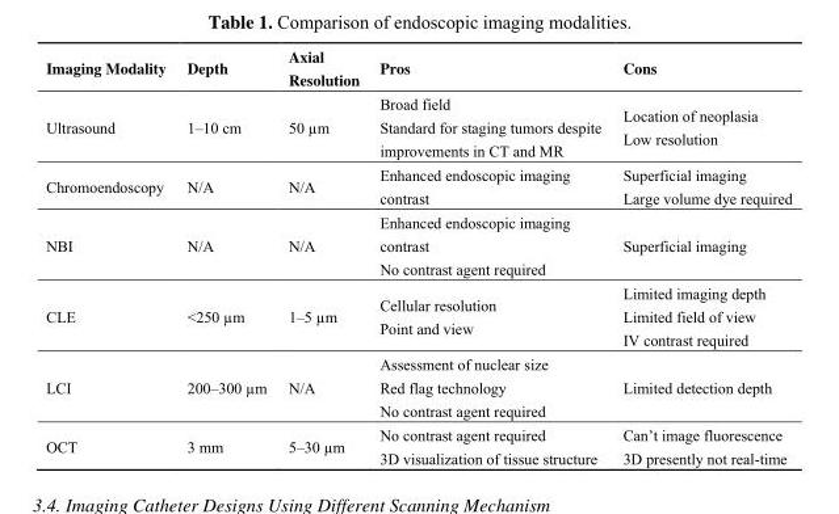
<table><thead><tr><td>Imaging Modality</td><td>Depth</td><td>Axial Resolution</td><td>Pros</td><td>Cons</td></tr></thead><tbody><tr><td>Ultrasound</td><td>1–10 cm</td><td>50 µm</td><td>Broad field Standard for staging tumors despite improvements in CT and MR</td><td>Location of neoplasia Low resolution</td></tr><tr><td>Chromoendoscopy</td><td>N/A</td><td>N/A</td><td>Enhanced endoscopic imaging contrast</td><td>Superficial imaging Large volume dye required</td></tr><tr><td>NBI</td><td>N/A</td><td>N/A</td><td>Enhanced endoscopic imaging contrast No contrast agent required</td><td>Superficial imaging</td></tr><tr><td>CLE</td><td>&lt;250 µm</td><td>1–5 µm</td><td>Cellular resolution Point and view</td><td>Limited imaging depth Limited field of view IV contrast required</td></tr><tr><td>LCI</td><td>200–300 µm</td><td>N/A</td><td>Assessment of nuclear size Red flag technology No contrast agent required</td><td>Limited detection depth</td></tr><tr><td>OCT</td><td>3 mm</td><td>5–30 µm</td><td>No contrast agent required 3D visualization of tissue structure</td><td>Can’t image fluorescence 3D presently not real-time</td></tr></tbody></table>